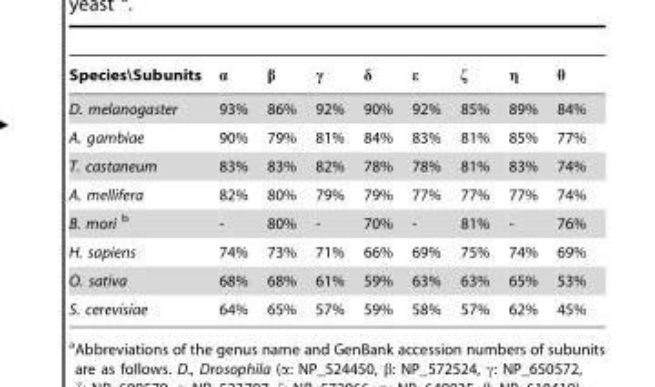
<table><thead><tr><td>Species\Subunits</td><td>α</td><td>β</td><td>γ</td><td>δ</td><td>ε</td><td>ζ</td><td>η</td><td>θ</td></tr></thead><tbody><tr><td>D. melanogaster</td><td>93%</td><td>86%</td><td>92%</td><td>90%</td><td>92%</td><td>85%</td><td>89%</td><td>84%</td></tr><tr><td>A. gambiae</td><td>90%</td><td>79%</td><td>81%</td><td>84%</td><td>83%</td><td>81%</td><td>85%</td><td>77%</td></tr><tr><td>T. castaneum</td><td>83%</td><td>83%</td><td>82%</td><td>78%</td><td>78%</td><td>81%</td><td>83%</td><td>74%</td></tr><tr><td>A. mellifera</td><td>82%</td><td>80%</td><td>79%</td><td>79%</td><td>77%</td><td>77%</td><td>77%</td><td>74%</td></tr><tr><td>B. mori b</td><td>-</td><td>80%</td><td>-</td><td>70%</td><td>-</td><td>81%</td><td>-</td><td>76%</td></tr><tr><td>H. sapiens</td><td>74%</td><td>73%</td><td>71%</td><td>66%</td><td>69%</td><td>75%</td><td>74%</td><td>69%</td></tr><tr><td>O. sativa</td><td>68%</td><td>68%</td><td>61%</td><td>59%</td><td>63%</td><td>63%</td><td>65%</td><td>53%</td></tr><tr><td>S. cerevisiae</td><td>64%</td><td>65%</td><td>57%</td><td>59%</td><td>58%</td><td>57%</td><td>62%</td><td>45%</td></tr></tbody></table>